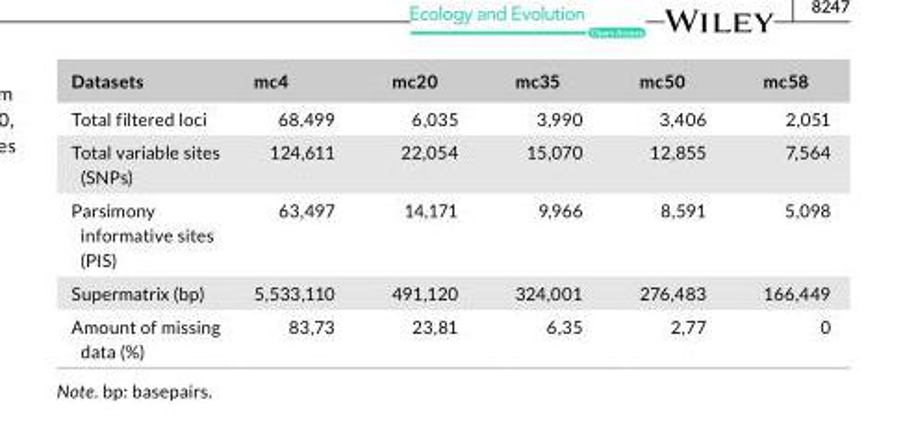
<table><thead><tr><td>Datasets</td><td>mc4</td><td>mc20</td><td>mc35</td><td>mc50</td><td>mc58</td></tr></thead><tbody><tr><td>Total filtered loci</td><td>68,499</td><td>6,035</td><td>3,990</td><td>3,406</td><td>2,051</td></tr><tr><td>Total variable sites (SNPs)</td><td>124,611</td><td>22,054</td><td>15,070</td><td>12,855</td><td>7,564</td></tr><tr><td>Parsimony informative sites (PIS)</td><td>63,497</td><td>14,171</td><td>9,966</td><td>8,591</td><td>5,098</td></tr><tr><td>Supermatrix (bp)</td><td>5,533,110</td><td>491,120</td><td>324,001</td><td>276,483</td><td>166,449</td></tr><tr><td>Amount of missing data (%)</td><td>83,73</td><td>23,81</td><td>6,35</td><td>2,77</td><td>0</td></tr></tbody></table>